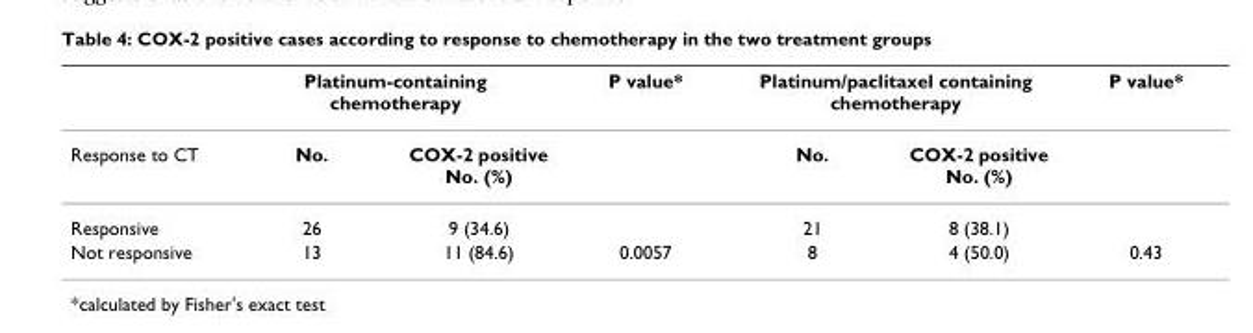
<table><thead><tr><td rowspan="2">Response to CT</td><td colspan="2">Platinum-containing chemotherapy</td><td rowspan="2">P value*</td><td colspan="2">Platinum/paclitaxel containing chemotherapy</td><td rowspan="2">P value*</td></tr><tr><td>No.</td><td>COX-2 positive No. (%)</td><td>No.</td><td>COX-2 positive No. (%)</td></tr></thead><tbody><tr><td>Responsive</td><td>26</td><td>9 (34.6)</td><td></td><td>21</td><td>8 (38.1)</td><td></td></tr><tr><td>Not responsive</td><td>13</td><td>11 (84.6)</td><td>0.0057</td><td>8</td><td>4 (50.0)</td><td>0.43</td></tr></tbody></table>